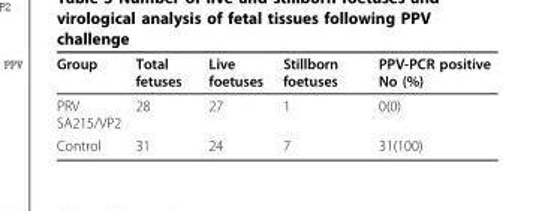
<table><thead><tr><td>Group</td><td>Total fetuses</td><td>Live foetuses</td><td>Stillborn foetuses</td><td>PPV-PCR positive No (%)</td></tr></thead><tbody><tr><td>PRV SA215/VP2</td><td>28</td><td>27</td><td>1</td><td>0(0)</td></tr><tr><td>Control</td><td>31</td><td>24</td><td>7</td><td>31(100)</td></tr></tbody></table>